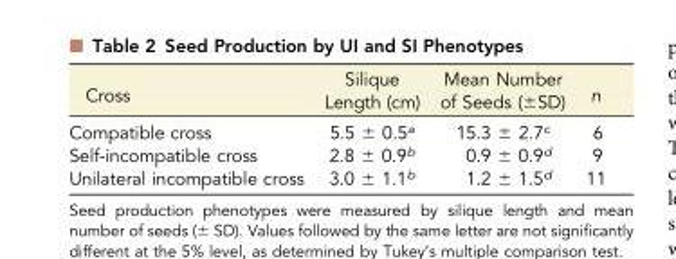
<table><thead><tr><td>Cross</td><td>Silique Length (cm)</td><td>Mean Number of Seeds (±SD)</td><td>n</td></tr></thead><tbody><tr><td>Compatible cross</td><td>5.5 ± 0.5<sup>a</sup></td><td>15.3 ± 2.7<sup>c</sup></td><td>6</td></tr><tr><td>Self-incompatible cross</td><td>2.8 ± 0.9<sup>b</sup></td><td>0.9 ± 0.9<sup>d</sup></td><td>9</td></tr><tr><td>Unilateral incompatible cross</td><td>3.0 ± 1.1<sup>b</sup></td><td>1.2 ± 1.5<sup>d</sup></td><td>11</td></tr></tbody></table>